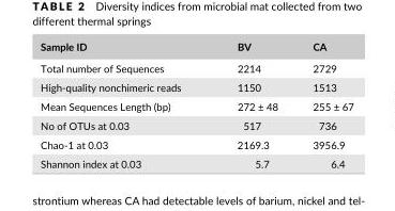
<table><thead><tr><td>Sample ID</td><td>BV</td><td>CA</td></tr></thead><tbody><tr><td>Total number of Sequences</td><td>2214</td><td>2729</td></tr><tr><td>High- quality nonchimeric reads</td><td>1150</td><td>1513</td></tr><tr><td>Mean Sequences Length (bp)</td><td>272 ± 48</td><td>255 ± 67</td></tr><tr><td>No of OTUs at 0.03</td><td>517</td><td>736</td></tr><tr><td>Chao- 1 at 0.03</td><td>2169.3</td><td>3956.9</td></tr><tr><td>Shannon index at 0.03</td><td>5.7</td><td>6.4</td></tr></tbody></table>